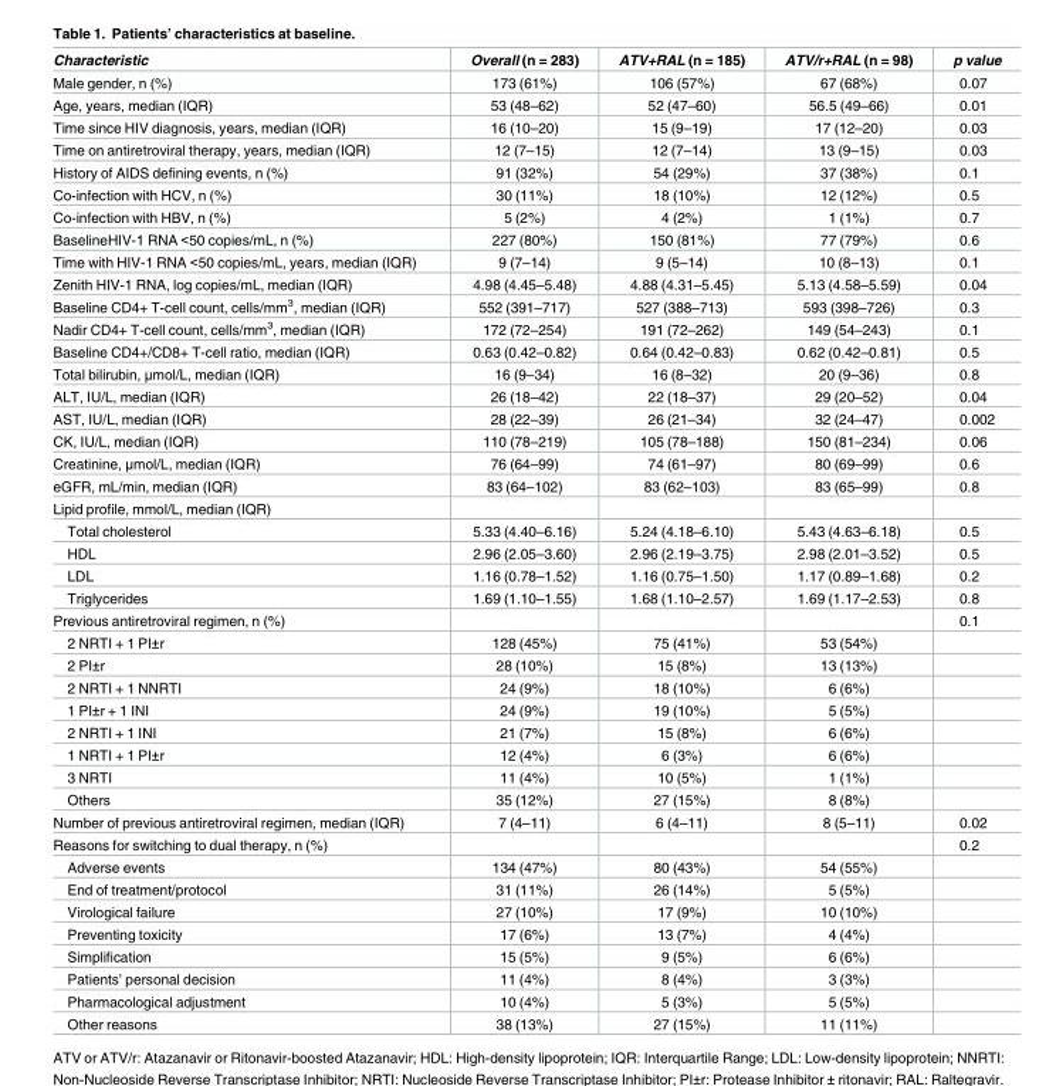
<table><thead><tr><td>Characteristic</td><td>Overall (n = 283)</td><td>ATV+RAL (n = 185)</td><td>ATV/r+RAL (n = 98)</td><td>p value</td></tr></thead><tbody><tr><td>Male gender, n (%)</td><td>173 (61%)</td><td>106 (57%)</td><td>67 (68%)</td><td>0.07</td></tr><tr><td>Age, years, median (IQR)</td><td>53 (48–62)</td><td>52 (47–60)</td><td>56.5 (49–66)</td><td>0.01</td></tr><tr><td>Time since HIV diagnosis, years, median (IQR)</td><td>16 (10–20)</td><td>15 (9–19)</td><td>17 (12–20)</td><td>0.03</td></tr><tr><td>Time on antiretroviral therapy, years, median (IQR)</td><td>12 (7–15)</td><td>12 (7–14)</td><td>13 (9–15)</td><td>0.03</td></tr><tr><td>History of AIDS defining events, n (%)</td><td>91 (32%)</td><td>54 (29%)</td><td>37 (38%)</td><td>0.1</td></tr><tr><td>Co-infection with HCV, n (%)</td><td>30 (11%)</td><td>18 (10%)</td><td>12 (12%)</td><td>0.5</td></tr><tr><td>Co-infection with HBV, n (%)</td><td>5 (2%)</td><td>4 (2%)</td><td>1 (1%)</td><td>0.7</td></tr><tr><td>BaselineHIV-1 RNA &lt;50 copies/mL, n (%)</td><td>227 (80%)</td><td>150 (81%)</td><td>77 (79%)</td><td>0.6</td></tr><tr><td>Time with HIV-1 RNA &lt;50 copies/mL, years, median (IQR)</td><td>9 (7–14)</td><td>9 (5–14)</td><td>10 (8–13)</td><td>0.1</td></tr><tr><td>Zenith HIV-1 RNA, log copies/mL, median (IQR)</td><td>4.98 (4.45–5.48)</td><td>4.88 (4.31–5.45)</td><td>5.13 (4.58–5.59)</td><td>0.04</td></tr><tr><td>Baseline CD4+ T-cell count, cells/mm<sup>3</sup>, median (IQR)</td><td>552 (391–717)</td><td>527 (388–713)</td><td>593 (398–726)</td><td>0.3</td></tr><tr><td>Nadir CD4+ T-cell count, cells/mm<sup>3</sup>, median (IQR)</td><td>172 (72–254)</td><td>191 (72–262)</td><td>149 (54–243)</td><td>0.1</td></tr><tr><td>Baseline CD4+/CD8+ T-cell ratio, median (IQR)</td><td>0.63 (0.42–0.82)</td><td>0.64 (0.42–0.83)</td><td>0.62 (0.42–0.81)</td><td>0.5</td></tr><tr><td>Total bilirubin, μmol/L, median (IQR)</td><td>16 (9–34)</td><td>16 (8–32)</td><td>20 (9–36)</td><td>0.8</td></tr><tr><td>ALT, IU/L, median (IQR)</td><td>26 (18–42)</td><td>22 (18–37)</td><td>29 (20–52)</td><td>0.04</td></tr><tr><td>AST, IU/L, median (IQR)</td><td>28 (22–39)</td><td>26 (21–34)</td><td>32 (24–47)</td><td>0.002</td></tr><tr><td>CK, IU/L, median (IQR)</td><td>110 (78–219)</td><td>105 (78–188)</td><td>150 (81–234)</td><td>0.06</td></tr><tr><td>Creatinine, μmol/L, median (IQR)</td><td>76 (64–99)</td><td>74 (61–97)</td><td>80 (69–99)</td><td>0.6</td></tr><tr><td>eGFR, mL/min, median (IQR)</td><td>83 (64–102)</td><td>83 (62–103)</td><td>83 (65–99)</td><td>0.8</td></tr><tr><td colspan="5">Lipid profile, mmol/L, median (IQR)</td></tr><tr><td>Total cholesterol</td><td>5.33 (4.40–6.16)</td><td>5.24 (4.18–6.10)</td><td>5.43 (4.63–6.18)</td><td>0.5</td></tr><tr><td>HDL</td><td>2.96 (2.05–3.60)</td><td>2.96 (2.19–3.75)</td><td>2.98 (2.01–3.52)</td><td>0.5</td></tr><tr><td>LDL</td><td>1.16 (0.78–1.52)</td><td>1.16 (0.75–1.50)</td><td>1.17 (0.89–1.68)</td><td>0.2</td></tr><tr><td>Triglycerides</td><td>1.69 (1.10–1.55)</td><td>1.68 (1.10–2.57)</td><td>1.69 (1.17–2.53)</td><td>0.8</td></tr><tr><td>Previous antiretroviral regimen, n (%)</td><td></td><td></td><td></td><td>0.1</td></tr><tr><td>2 NRTI + 1 PI±r</td><td>128 (45%)</td><td>75 (41%)</td><td>53 (54%)</td><td></td></tr><tr><td>2 PI±r</td><td>28 (10%)</td><td>15 (8%)</td><td>13 (13%)</td><td></td></tr><tr><td>2 NRTI + 1 NNRTI</td><td>24 (9%)</td><td>18 (10%)</td><td>6 (6%)</td><td></td></tr><tr><td>1 PI±r + 1 INI</td><td>24 (9%)</td><td>19 (10%)</td><td>5 (5%)</td><td></td></tr><tr><td>2 NRTI + 1 INI</td><td>21 (7%)</td><td>15 (8%)</td><td>6 (6%)</td><td></td></tr><tr><td>1 NRTI + 1 PI±r</td><td>12 (4%)</td><td>6 (3%)</td><td>6 (6%)</td><td></td></tr><tr><td>3 NRTI</td><td>11 (4%)</td><td>10 (5%)</td><td>1 (1%)</td><td></td></tr><tr><td>Others</td><td>35 (12%)</td><td>27 (15%)</td><td>8 (8%)</td><td></td></tr><tr><td>Number of previous antiretroviral regimen, median (IQR)</td><td>7 (4–11)</td><td>6 (4–11)</td><td>8 (5–11)</td><td>0.02</td></tr><tr><td>Reasons for switching to dual therapy, n (%)</td><td></td><td></td><td></td><td>0.2</td></tr><tr><td>Adverse events</td><td>134 (47%)</td><td>80 (43%)</td><td>54 (55%)</td><td></td></tr><tr><td>End of treatment/protocol</td><td>31 (11%)</td><td>26 (14%)</td><td>5 (5%)</td><td></td></tr><tr><td>Virological failure</td><td>27 (10%)</td><td>17 (9%)</td><td>10 (10%)</td><td></td></tr><tr><td>Preventing toxicity</td><td>17 (6%)</td><td>13 (7%)</td><td>4 (4%)</td><td></td></tr><tr><td>Simplification</td><td>15 (5%)</td><td>9 (5%)</td><td>6 (6%)</td><td></td></tr><tr><td>Patients’ personal decision</td><td>11 (4%)</td><td>8 (4%)</td><td>3 (3%)</td><td></td></tr><tr><td>Pharmacological adjustment</td><td>10 (4%)</td><td>5 (3%)</td><td>5 (5%)</td><td></td></tr><tr><td>Other reasons</td><td>38 (13%)</td><td>27 (15%)</td><td>11 (11%)</td><td></td></tr></tbody></table>